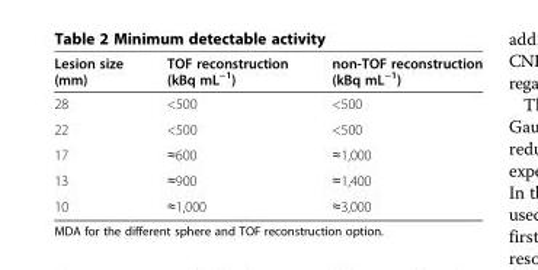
<table><thead><tr><td>Lesion size (mm)</td><td>TOF reconstruction (kBq mL<sup>−1</sup>)</td><td>non-TOF reconstruction (kBq mL<sup>−1</sup>)</td></tr></thead><tbody><tr><td>28</td><td>&lt;500</td><td>&lt;500</td></tr><tr><td>22</td><td>&lt;500</td><td>&lt;500</td></tr><tr><td>17</td><td>≈600</td><td>≈1,000</td></tr><tr><td>13</td><td>≈900</td><td>≈1,400</td></tr><tr><td>10</td><td>≈1,000</td><td>≈3,000</td></tr></tbody></table>